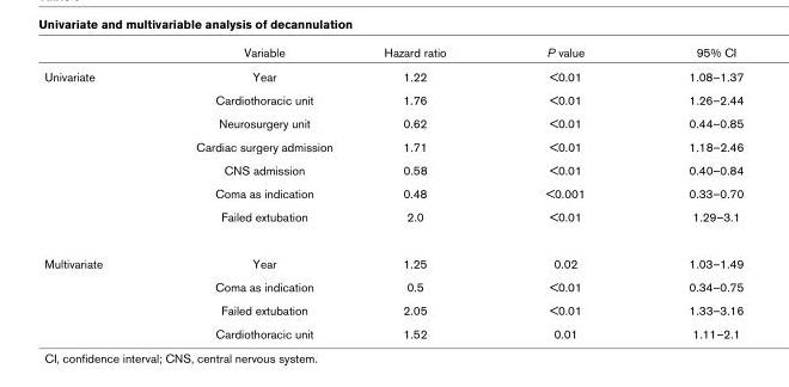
<table><thead><tr><td></td><td>Variable</td><td>Hazard ratio</td><td>P value</td><td>95% CI</td></tr></thead><tbody><tr><td rowspan="7">Univariate</td><td>Year</td><td>1.22</td><td>&lt;0.01</td><td>1.08–1.37</td></tr><tr><td>Cardiothoracic unit</td><td>1.76</td><td>&lt;0.01</td><td>1.26–2.44</td></tr><tr><td>Neurosurgery unit</td><td>0.62</td><td>&lt;0.01</td><td>0.44–0.85</td></tr><tr><td>Cardiac surgery admission</td><td>1.71</td><td>&lt;0.01</td><td>1.18–2.46</td></tr><tr><td>CNS admission</td><td>0.58</td><td>&lt;0.01</td><td>0.40–0.84</td></tr><tr><td>Coma as indication</td><td>0.48</td><td>&lt;0.001</td><td>0.33–0.70</td></tr><tr><td>Failed extubation</td><td>2.0</td><td>&lt;0.01</td><td>1.29–3.1</td></tr><tr><td rowspan="4">Multivariate</td><td>Year</td><td>1.25</td><td>0.02</td><td>1.03–1.49</td></tr><tr><td>Coma as indication</td><td>0.5</td><td>&lt;0.01</td><td>0.34–0.75</td></tr><tr><td>Failed extubation</td><td>2.05</td><td>&lt;0.01</td><td>1.33–3.16</td></tr><tr><td>Cardiothoracic unit</td><td>1.52</td><td>0.01</td><td>1.11–2.1</td></tr></tbody></table>